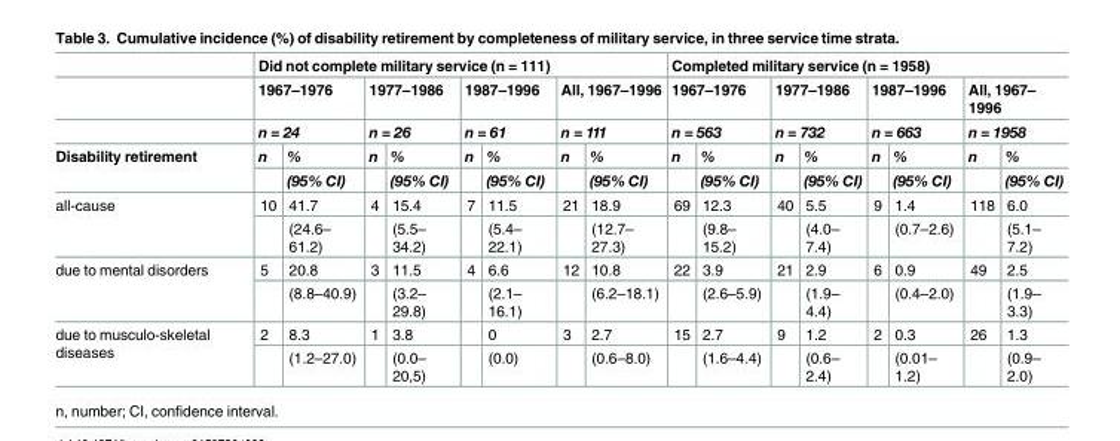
<table><thead><tr><td rowspan="5">Disability retirement</td><td colspan="8">Did not complete military service (n = 111)</td><td colspan="8">Completed military service (n = 1958)</td></tr><tr><td rowspan="2" colspan="2">1967–1976 n = 24</td><td rowspan="2" colspan="2">1977–1986 n = 26</td><td rowspan="2" colspan="2">1987–1996 n = 61</td><td rowspan="2" colspan="2">All, 1967–1996 n = 111</td><td rowspan="2" colspan="2">1967–1976 n = 563</td><td rowspan="2" colspan="2">1977–1986 n = 732</td><td rowspan="2" colspan="2">1987–1996 n = 663</td><td rowspan="2" colspan="2">All, 1967– 1996 n = 1958</td></tr><tr></tr><tr><td rowspan="2">n</td><td rowspan="2">% (95% CI)</td><td rowspan="2">n</td><td rowspan="2">% (95% CI)</td><td rowspan="2">n</td><td rowspan="2">% (95% CI)</td><td rowspan="2">n</td><td rowspan="2">% (95% CI)</td><td rowspan="2">n</td><td rowspan="2">% (95% CI)</td><td rowspan="2">n</td><td rowspan="2">% (95% CI)</td><td rowspan="2">n</td><td rowspan="2">% (95% CI)</td><td rowspan="2">n</td><td rowspan="2">% (95% CI)</td></tr><tr></tr></thead><tbody><tr><td rowspan="2">all-cause</td><td>10</td><td>41.7</td><td>4</td><td>15.4</td><td>7</td><td>11.5</td><td>21</td><td>18.9</td><td>69</td><td>12.3</td><td>40</td><td>5.5</td><td>9</td><td>1.4</td><td>118</td><td>6.0</td></tr><tr><td></td><td>(24.6– 61.2)</td><td></td><td>(5.5– 34.2)</td><td></td><td>(5.4– 22.1)</td><td></td><td>(12.7– 27.3)</td><td></td><td>(9.8– 15.2)</td><td></td><td>(4.0– 7.4)</td><td></td><td>(0.7–2.6)</td><td></td><td>(5.1– 7.2)</td></tr><tr><td rowspan="2">due to mental disorders</td><td>5</td><td>20.8</td><td>3</td><td>11.5</td><td>4</td><td>6.6</td><td>12</td><td>10.8</td><td>22</td><td>3.9</td><td>21</td><td>2.9</td><td>6</td><td>0.9</td><td>49</td><td>2.5</td></tr><tr><td></td><td>(8.8–40.9)</td><td></td><td>(3.2– 29.8)</td><td></td><td>(2.1– 16.1)</td><td></td><td>(6.2–18.1)</td><td></td><td>(2.6–5.9)</td><td></td><td>(1.9– 4.4)</td><td></td><td>(0.4–2.0)</td><td></td><td>(1.9– 3.3)</td></tr><tr><td rowspan="2">due to musculo-skeletal diseases</td><td>2</td><td>8.3</td><td>1</td><td>3.8</td><td></td><td>0</td><td>3</td><td>2.7</td><td>15</td><td>2.7</td><td>9</td><td>1.2</td><td>2</td><td>0.3</td><td>26</td><td>1.3</td></tr><tr><td></td><td>(1.2–27.0)</td><td></td><td>(0.0– 20,5)</td><td></td><td>(0.0)</td><td></td><td>(0.6–8.0)</td><td></td><td>(1.6–4.4)</td><td></td><td>(0.6– 2.4)</td><td></td><td>(0.01– 1.2)</td><td></td><td>(0.9– 2.0)</td></tr></tbody></table>